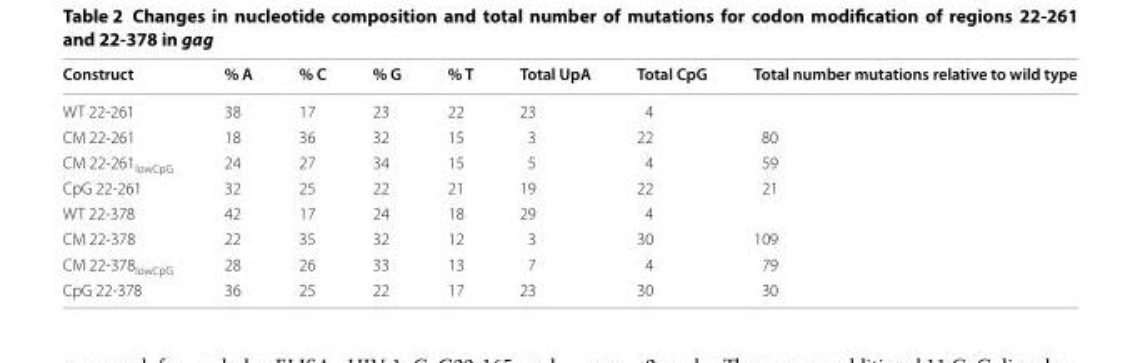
<table><thead><tr><td>Construct</td><td>% A</td><td>% C</td><td>% G</td><td>% T</td><td>Total UpA</td><td>Total CpG</td><td>Total number mutations relative to wild type</td></tr></thead><tbody><tr><td>WT 22‑261</td><td>38</td><td>17</td><td>23</td><td>22</td><td>23</td><td>4</td><td></td></tr><tr><td>CM 22‑261</td><td>18</td><td>36</td><td>32</td><td>15</td><td>3</td><td>22</td><td>80</td></tr><tr><td>CM 22‑261<sub>lowCpG</sub></td><td>24</td><td>27</td><td>34</td><td>15</td><td>5</td><td>4</td><td>59</td></tr><tr><td>CpG 22‑261</td><td>32</td><td>25</td><td>22</td><td>21</td><td>19</td><td>22</td><td>21</td></tr><tr><td>WT 22‑378</td><td>42</td><td>17</td><td>24</td><td>18</td><td>29</td><td>4</td><td></td></tr><tr><td>CM 22‑378</td><td>22</td><td>35</td><td>32</td><td>12</td><td>3</td><td>30</td><td>109</td></tr><tr><td>CM 22‑378<sub>lowCpG</sub></td><td>28</td><td>26</td><td>33</td><td>13</td><td>7</td><td>4</td><td>79</td></tr><tr><td>CpG 22‑378</td><td>36</td><td>25</td><td>22</td><td>17</td><td>23</td><td>30</td><td>30</td></tr></tbody></table>